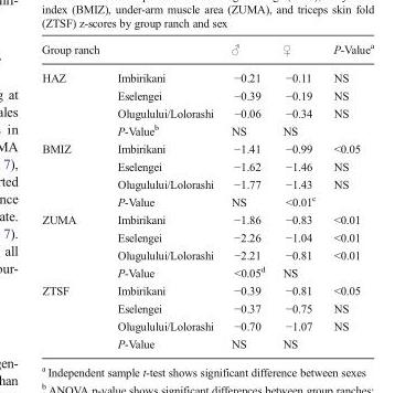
<table><thead><tr><td>Group ranch</td><td></td><td>♂</td><td>♀</td><td>P-Value<sup>a</sup></td></tr></thead><tbody><tr><td rowspan="4">HAZ</td><td>Imbirikani</td><td>−0.21</td><td>−0.11</td><td>NS</td></tr><tr><td>Eselengei</td><td>−0.39</td><td>−0.19</td><td>NS</td></tr><tr><td>Olugulului/Lolorashi</td><td>−0.06</td><td>−0.34</td><td>NS</td></tr><tr><td>P-Value<sup>b</sup></td><td>NS</td><td>NS</td><td></td></tr><tr><td rowspan="4">BMIZ</td><td>Imbirikani</td><td>−1.41</td><td>−0.99</td><td>&lt;0.05</td></tr><tr><td>Eselengei</td><td>−1.62</td><td>−1.46</td><td>NS</td></tr><tr><td>Olugulului/Lolorashi</td><td>−1.77</td><td>−1.43</td><td>NS</td></tr><tr><td>P-Value</td><td>NS</td><td>&lt;0.01<sup>c</sup></td><td></td></tr><tr><td rowspan="4">ZUMA</td><td>Imbirikani</td><td>−1.86</td><td>−0.83</td><td>&lt;0.01</td></tr><tr><td>Eselengei</td><td>−2.26</td><td>−1.04</td><td>&lt;0.01</td></tr><tr><td>Olugulului/Lolorashi</td><td>−2.21</td><td>−0.81</td><td>&lt;0.01</td></tr><tr><td>P-Value</td><td>&lt;0.05<sup>d</sup></td><td>NS</td><td></td></tr><tr><td rowspan="4">ZTSF</td><td>Imbirikani</td><td>−0.39</td><td>−0.81</td><td>&lt;0.05</td></tr><tr><td>Eselengei</td><td>−0.37</td><td>−0.75</td><td>NS</td></tr><tr><td>Olugulului/Lolorashi</td><td>−0.70</td><td>−1.07</td><td>NS</td></tr><tr><td>P-Value</td><td>NS</td><td>NS</td><td></td></tr></tbody></table>